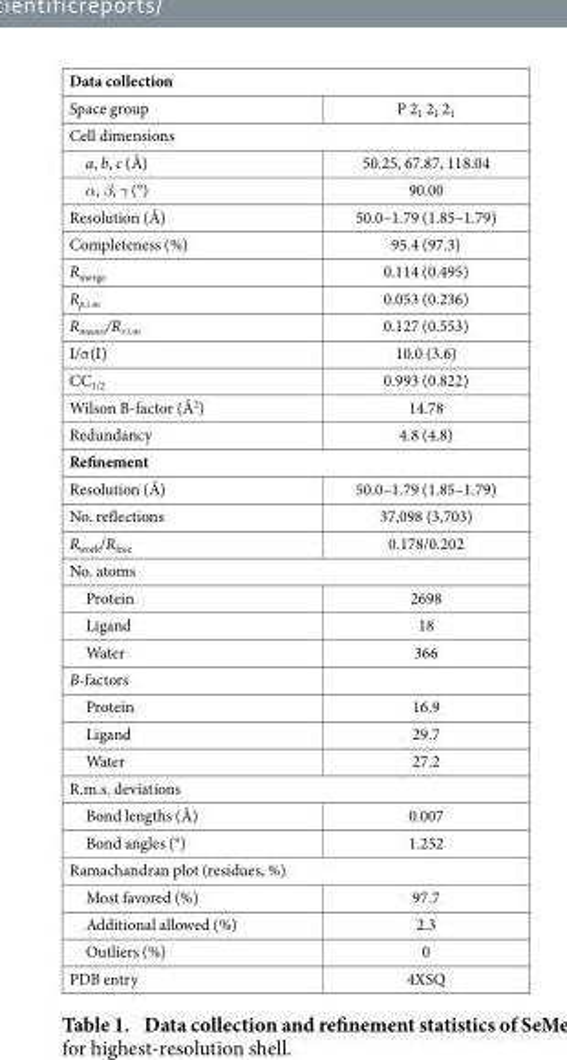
<table><tbody><tr><td colspan="2">Data collection</td></tr><tr><td>Space group</td><td>P 2<sub>1</sub> 2<sub>1</sub> 2<sub>1</sub></td></tr><tr><td colspan="2">Cell dimensions</td></tr><tr><td>a, b, c (Å)</td><td>50.25, 67.87, 118.04</td></tr><tr><td>α, β, γ (°)</td><td>90.00</td></tr><tr><td>Resolution (Å)</td><td>50.0–1.79 (1.85–1.79)</td></tr><tr><td>Completeness (%)</td><td>95.4 (97.3)</td></tr><tr><td>R<sub>merge</sub></td><td>0.114 (0.495)</td></tr><tr><td>R<sub>p.i.m</sub></td><td>0.053 (0.236)</td></tr><tr><td>R<sub>means</sub>/R<sub>r.i.m</sub></td><td>0.127 (0.553)</td></tr><tr><td>I/σ (I)</td><td>10.0 (3.6)</td></tr><tr><td>CC<sub>1/2</sub></td><td>0.993 (0.822)</td></tr><tr><td>Wilson B-factor (Å<sup>2</sup>)</td><td>14.78</td></tr><tr><td>Redundancy</td><td>4.8 (4.8)</td></tr><tr><td colspan="2">Refinement</td></tr><tr><td>Resolution (Å)</td><td>50.0–1.79 (1.85–1.79)</td></tr><tr><td>No. reflections</td><td>37,098 (3,703)</td></tr><tr><td>R<sub>work</sub>/R<sub>free</sub></td><td>0.178/0.202</td></tr><tr><td colspan="2">No. atoms</td></tr><tr><td>Protein</td><td>2698</td></tr><tr><td>Ligand</td><td>18</td></tr><tr><td>Water</td><td>366</td></tr><tr><td colspan="2">B-factors</td></tr><tr><td>Protein</td><td>16.9</td></tr><tr><td>Ligand</td><td>29.7</td></tr><tr><td>Water</td><td>27.2</td></tr><tr><td colspan="2">R.m.s. deviations</td></tr><tr><td>Bond lengths (Å)</td><td>0.007</td></tr><tr><td>Bond angles (°)</td><td>1.252</td></tr><tr><td colspan="2">Ramachandran plot (residues, %)</td></tr><tr><td>Most favored (%)</td><td>97.7</td></tr><tr><td>Additional allowed (%)</td><td>2.3</td></tr><tr><td>Outliers (%)</td><td>0</td></tr><tr><td>PDB entry</td><td>4XSQ</td></tr></tbody></table>